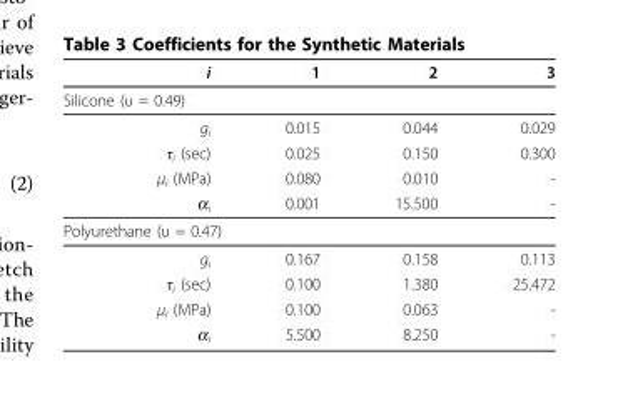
<table><thead><tr><td>i</td><td>1</td><td>2</td><td>3</td></tr></thead><tbody><tr><td colspan="4">Silicone (υ = 0.49)</td></tr><tr><td>g<sub>i</sub></td><td>0.015</td><td>0.044</td><td>0.029</td></tr><tr><td>τ<sub>i</sub> (sec)</td><td>0.025</td><td>0.150</td><td>0.300</td></tr><tr><td>μ<sub>i</sub> (MPa)</td><td>0.080</td><td>0.010</td><td>-</td></tr><tr><td>α<sub>i</sub></td><td>0.001</td><td>15.500</td><td>-</td></tr><tr><td colspan="4">Polyurethane (υ = 0.47)</td></tr><tr><td>g<sub>i</sub></td><td>0.167</td><td>0.158</td><td>0.113</td></tr><tr><td>τ<sub>i</sub> (sec)</td><td>0.100</td><td>1.380</td><td>25.472</td></tr><tr><td>μ<sub>i</sub> (MPa)</td><td>0.100</td><td>0.063</td><td>-</td></tr><tr><td>α<sub>i</sub></td><td>5.500</td><td>8.250</td><td>-</td></tr></tbody></table>